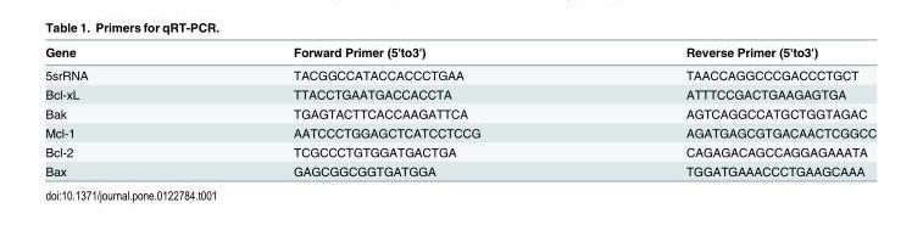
<table><thead><tr><td>Gene</td><td>Forward Primer (5&#x27;to3&#x27;)</td><td>Reverse Primer (5&#x27;to3&#x27;)</td></tr></thead><tbody><tr><td>5srRNA</td><td>TACGGCCATACCACCCTGAA</td><td>TAACCAGGCCCGACCCTGCT</td></tr><tr><td>Bcl-xL</td><td>TTACCTGAATGACCACCTA</td><td>ATTTCCGACTGAAGAGTGA</td></tr><tr><td>Bak</td><td>TGAGTACTTCACCAAGATTCA</td><td>AGTCAGGCCATGCTGGTAGAC</td></tr><tr><td>Mcl-1</td><td>AATCCCTGGAGCTCATCCTCCG</td><td>AGATGAGCGTGACAACTCGGCC</td></tr><tr><td>Bcl-2</td><td>TCGCCCTGTGGATGACTGA</td><td>CAGAGACAGCCAGGAGAAATA</td></tr><tr><td>Bax</td><td>GAGCGGCGGTGATGGA</td><td>TGGATGAAACCCTGAAGCAAA</td></tr></tbody></table>